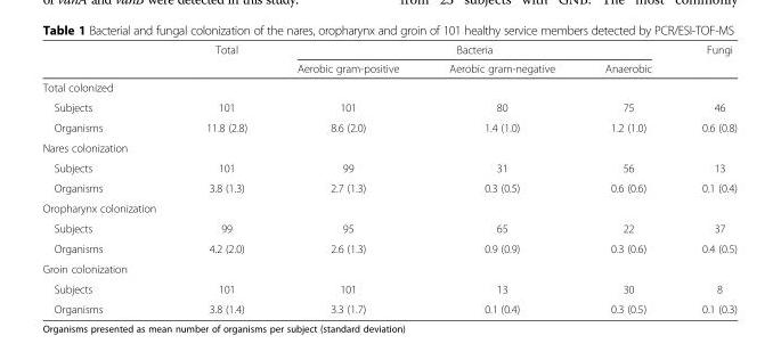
<table><thead><tr><td rowspan="2"></td><td rowspan="2">Total</td><td colspan="3">Bacteria</td><td rowspan="2">Fungi</td></tr><tr><td>Aerobic gram-positive</td><td>Aerobic gram-negative</td><td>Anaerobic</td></tr></thead><tbody><tr><td colspan="6">Total colonized</td></tr><tr><td>Subjects</td><td>101</td><td>101</td><td>80</td><td>75</td><td>46</td></tr><tr><td>Organisms</td><td>11.8 (2.8)</td><td>8.6 (2.0)</td><td>1.4 (1.0)</td><td>1.2 (1.0)</td><td>0.6 (0.8)</td></tr><tr><td colspan="6">Nares colonization</td></tr><tr><td>Subjects</td><td>101</td><td>99</td><td>31</td><td>56</td><td>13</td></tr><tr><td>Organisms</td><td>3.8 (1.3)</td><td>2.7 (1.3)</td><td>0.3 (0.5)</td><td>0.6 (0.6)</td><td>0.1 (0.4)</td></tr><tr><td colspan="6">Oropharynx colonization</td></tr><tr><td>Subjects</td><td>99</td><td>95</td><td>65</td><td>22</td><td>37</td></tr><tr><td>Organisms</td><td>4.2 (2.0)</td><td>2.6 (1.3)</td><td>0.9 (0.9)</td><td>0.3 (0.6)</td><td>0.4 (0.5)</td></tr><tr><td colspan="6">Groin colonization</td></tr><tr><td>Subjects</td><td>101</td><td>101</td><td>13</td><td>30</td><td>8</td></tr><tr><td>Organisms</td><td>3.8 (1.4)</td><td>3.3 (1.7)</td><td>0.1 (0.4)</td><td>0.3 (0.5)</td><td>0.1 (0.3)</td></tr></tbody></table>